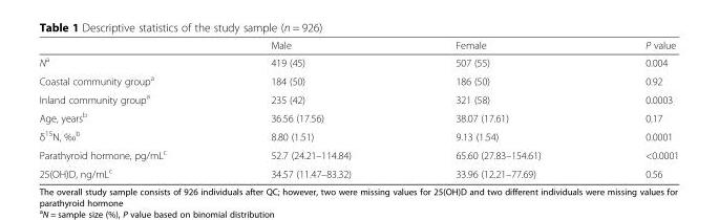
<table><thead><tr><td></td><td>Male</td><td>Female</td><td>P value</td></tr></thead><tbody><tr><td>N<sup>a</sup></td><td>419 (45)</td><td>507 (55)</td><td>0.004</td></tr><tr><td>Coastal community group<sup>a</sup></td><td>184 (50)</td><td>186 (50)</td><td>0.92</td></tr><tr><td>Inland community group<sup>a</sup></td><td>235 (42)</td><td>321 (58)</td><td>0.0003</td></tr><tr><td>Age, years<sup>b</sup></td><td>36.56 (17.56)</td><td>38.07 (17.61)</td><td>0.17</td></tr><tr><td>δ<sup>15</sup>N, ‰<sup>b</sup></td><td>8.80 (1.51)</td><td>9.13 (1.54)</td><td>0.0001</td></tr><tr><td>Parathyroid hormone, pg/mL<sup>c</sup></td><td>52.7 (24.21–114.84)</td><td>65.60 (27.83–154.61)</td><td>&lt;0.0001</td></tr><tr><td>25(OH)D, ng/mL<sup>c</sup></td><td>34.57 (11.47–83.32)</td><td>33.96 (12.21–77.69)</td><td>0.56</td></tr></tbody></table>